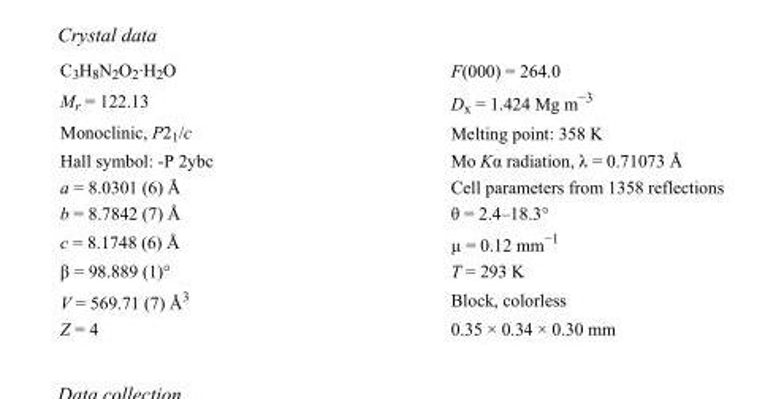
<table><tbody><tr><td>C<sub>3</sub>H<sub>8</sub>N<sub>2</sub>O<sub>2</sub>·H<sub>2</sub>O</td><td>F(000) = 264.0</td></tr><tr><td>M<sub>r</sub> = 122.13</td><td>D<sub>x</sub> = 1.424 Mg m<sup>−3</sup></td></tr><tr><td>Monoclinic, P2<sub>1</sub>/c</td><td>Melting point: 358 K</td></tr><tr><td>Hall symbol: -P 2ybc</td><td>Mo Kα radiation, λ = 0.71073 Å</td></tr><tr><td>a = 8.0301 (6) Å</td><td>Cell parameters from 1358 reflections</td></tr><tr><td>b = 8.7842 (7) Å</td><td>θ = 2.4–18.3°</td></tr><tr><td>c = 8.1748 (6) Å</td><td>µ = 0.12 mm<sup>−1</sup></td></tr><tr><td>β = 98.889 (1)°</td><td>T = 293 K</td></tr><tr><td>V = 569.71 (7) Å<sup>3</sup></td><td>Block, colorless</td></tr><tr><td>Z = 4</td><td>0.35 × 0.34 × 0.30 mm</td></tr></tbody></table>